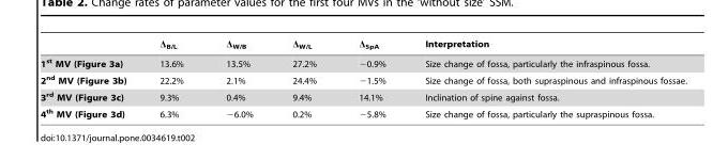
<table><thead><tr><td></td><td>Δ<sub>B/L</sub></td><td>Δ<sub>W/B</sub></td><td>Δ<sub>W/L</sub></td><td>Δ<sub>SpA</sub></td><td>Interpretation</td></tr></thead><tbody><tr><td>1<sup>st</sup> MV (Figure 3a)</td><td>13.6%</td><td>13.5%</td><td>27.2%</td><td>−0.9%</td><td>Size change of fossa, particularly the infraspinous fossa.</td></tr><tr><td>2<sup>nd</sup> MV (Figure 3b)</td><td>22.2%</td><td>2.1%</td><td>24.4%</td><td>−1.5%</td><td>Size change of fossa, both supraspinous and infraspinous fossae.</td></tr><tr><td>3<sup>rd</sup> MV (Figure 3c)</td><td>9.3%</td><td>0.4%</td><td>9.4%</td><td>14.1%</td><td>Inclination of spine against fossa.</td></tr><tr><td>4<sup>th</sup> MV (Figure 3d)</td><td>6.3%</td><td>−6.0%</td><td>0.2%</td><td>−5.8%</td><td>Size change of fossa, particularly the supraspinous fossa.</td></tr></tbody></table>